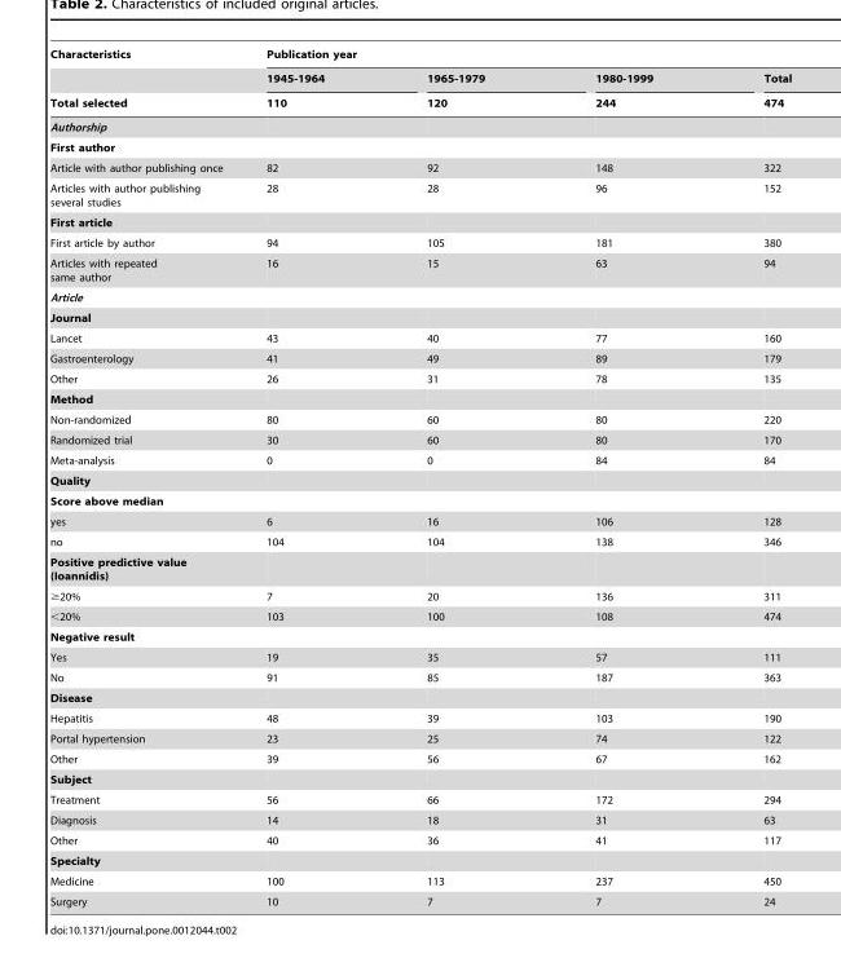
<table><thead><tr><td rowspan="3">Characteristics Total selected</td><td colspan="4">Publication year</td></tr><tr><td rowspan="2">1945-1964 110</td><td rowspan="2">1965-1979 120</td><td rowspan="2">1980-1999 244</td><td rowspan="2">Total 474</td></tr><tr></tr></thead><tbody><tr><td colspan="5">Authorship</td></tr><tr><td colspan="5">First author</td></tr><tr><td>Article with author publishing once</td><td>82</td><td>92</td><td>148</td><td>322</td></tr><tr><td>Articles with author publishing several studies</td><td>28</td><td>28</td><td>96</td><td>152</td></tr><tr><td colspan="5">First article</td></tr><tr><td>First article by author</td><td>94</td><td>105</td><td>181</td><td>380</td></tr><tr><td>Articles with repeated same author</td><td>16</td><td>15</td><td>63</td><td>94</td></tr><tr><td colspan="5">Article</td></tr><tr><td colspan="5">Journal</td></tr><tr><td>Lancet</td><td>43</td><td>40</td><td>77</td><td>160</td></tr><tr><td>Gastroenterology</td><td>41</td><td>49</td><td>89</td><td>179</td></tr><tr><td>Other</td><td>26</td><td>31</td><td>78</td><td>135</td></tr><tr><td colspan="5">Method</td></tr><tr><td>Non-randomized</td><td>80</td><td>60</td><td>80</td><td>220</td></tr><tr><td>Randomized trial</td><td>30</td><td>60</td><td>80</td><td>170</td></tr><tr><td>Meta-analysis</td><td>0</td><td>0</td><td>84</td><td>84</td></tr><tr><td colspan="5">Quality</td></tr><tr><td colspan="5">Score above median</td></tr><tr><td>yes</td><td>6</td><td>16</td><td>106</td><td>128</td></tr><tr><td>no</td><td>104</td><td>104</td><td>138</td><td>346</td></tr><tr><td colspan="5">Positive predictive value (Ioannidis)</td></tr><tr><td>≥20%</td><td>7</td><td>20</td><td>136</td><td>311</td></tr><tr><td>&lt;20%</td><td>103</td><td>100</td><td>108</td><td>474</td></tr><tr><td colspan="5">Negative result</td></tr><tr><td>Yes</td><td>19</td><td>35</td><td>57</td><td>111</td></tr><tr><td>No</td><td>91</td><td>85</td><td>187</td><td>363</td></tr><tr><td colspan="5">Disease</td></tr><tr><td>Hepatitis</td><td>48</td><td>39</td><td>103</td><td>190</td></tr><tr><td>Portal hypertension</td><td>23</td><td>25</td><td>74</td><td>122</td></tr><tr><td>Other</td><td>39</td><td>56</td><td>67</td><td>162</td></tr><tr><td colspan="5">Subject</td></tr><tr><td>Treatment</td><td>56</td><td>66</td><td>172</td><td>294</td></tr><tr><td>Diagnosis</td><td>14</td><td>18</td><td>31</td><td>63</td></tr><tr><td>Other</td><td>40</td><td>36</td><td>41</td><td>117</td></tr><tr><td colspan="5">Specialty</td></tr><tr><td>Medicine</td><td>100</td><td>113</td><td>237</td><td>450</td></tr><tr><td>Surgery</td><td>10</td><td>7</td><td>7</td><td>24</td></tr></tbody></table>